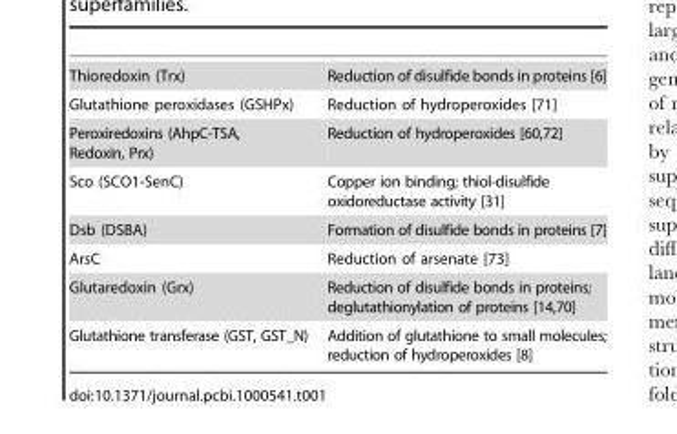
<table><tbody><tr><td>Thioredoxin (Trx)</td><td>Reduction of disulfide bonds in proteins [6]</td></tr><tr><td>Glutathione peroxidases (GSHPx)</td><td>Reduction of hydroperoxides [71]</td></tr><tr><td>Peroxiredoxins (AhpC-TSA, Redoxin, Prx)</td><td>Reduction of hydroperoxides [60,72]</td></tr><tr><td>Sco (SCO1-SenC)</td><td>Copper ion binding; thiol-disulfide oxidoreductase activity [31]</td></tr><tr><td>Dsb (DSBA)</td><td>Formation of disulfide bonds in proteins [7]</td></tr><tr><td>ArsC</td><td>Reduction of arsenate [73]</td></tr><tr><td>Glutaredoxin (Grx)</td><td>Reduction of disulfide bonds in proteins; deglutathionylation of proteins [14,70]</td></tr><tr><td>Glutathione transferase (GST, GST_N)</td><td>Addition of glutathione to small molecules; reduction of hydroperoxides [8]</td></tr></tbody></table>